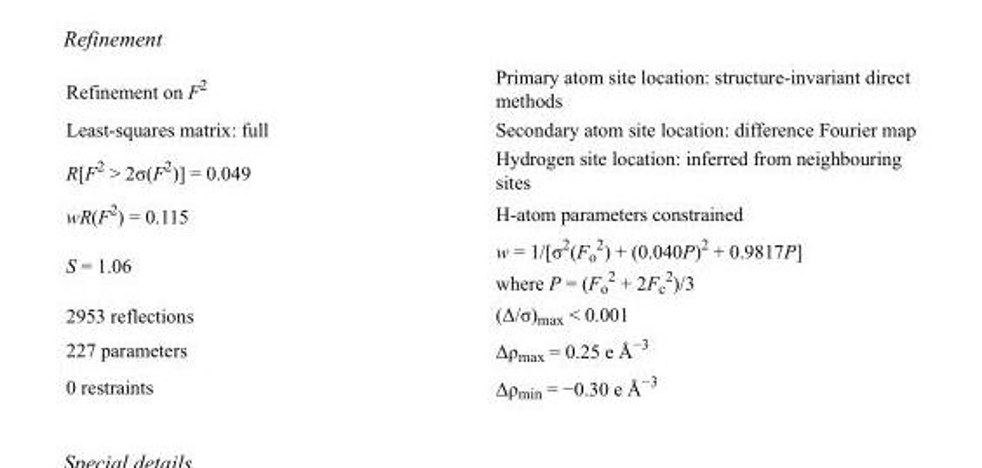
<table><tbody><tr><td>Refinement on F<sup>2</sup></td><td>Primary atom site location: structure-invariant direct methods</td></tr><tr><td>Least-squares matrix: full</td><td>Secondary atom site location: difference Fourier map</td></tr><tr><td>R[F<sup>2</sup> &gt; 2σ(F<sup>2</sup>)] = 0.049</td><td>Hydrogen site location: inferred from neighbouring sites</td></tr><tr><td>wR(F<sup>2</sup>) = 0.115</td><td>H-atom parameters constrained</td></tr><tr><td>S = 1.06</td><td>w = 1/[σ<sup>2</sup>(F<sub>o</sub> <sup>2</sup>) + (0.040P)<sup>2</sup> + 0.9817P] where P = (F<sub>o</sub> <sup>2</sup> + 2F<sub>c</sub> <sup>2</sup>)/3</td></tr><tr><td>2953 reflections</td><td>(Δ/σ)<sub>max</sub> &lt; 0.001</td></tr><tr><td>227 parameters</td><td>Δρ<sub>max</sub> = 0.25 e Å<sup>−3</sup></td></tr><tr><td>0 restraints</td><td>Δρ<sub>min</sub> = −0.30 e Å<sup>−3</sup></td></tr></tbody></table>